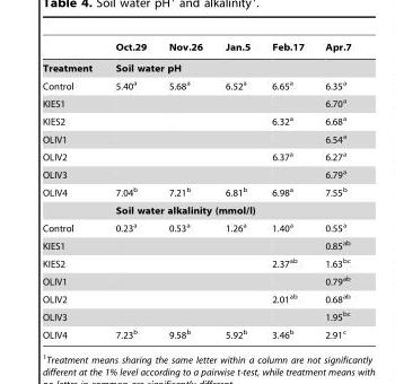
<table><thead><tr><td></td><td>Oct.29</td><td>Nov.26</td><td>Jan.5</td><td>Feb.17</td><td>Apr.7</td></tr></thead><tbody><tr><td>Treatment</td><td colspan="5">Soil water pH</td></tr><tr><td>Control</td><td>5.40<sup>a</sup></td><td>5.68<sup>a</sup></td><td>6.52<sup>a</sup></td><td>6.65<sup>a</sup></td><td>6.35<sup>a</sup></td></tr><tr><td>KIES1</td><td></td><td></td><td></td><td></td><td>6.70<sup>a</sup></td></tr><tr><td>KIES2</td><td></td><td></td><td></td><td>6.32<sup>a</sup></td><td>6.68<sup>a</sup></td></tr><tr><td>OLIV1</td><td></td><td></td><td></td><td></td><td>6.54<sup>a</sup></td></tr><tr><td>OLIV2</td><td></td><td></td><td></td><td>6.37<sup>a</sup></td><td>6.27<sup>a</sup></td></tr><tr><td>OLIV3</td><td></td><td></td><td></td><td></td><td>6.79<sup>a</sup></td></tr><tr><td rowspan="2">OLIV4</td><td>7.04<sup>b</sup></td><td>7.21<sup>b</sup></td><td>6.81<sup>b</sup></td><td>6.98<sup>a</sup></td><td>7.55<sup>b</sup></td></tr><tr><td colspan="5">Soil water alkalinity (mmol/l)</td></tr><tr><td>Control</td><td>0.23<sup>a</sup></td><td>0.53<sup>a</sup></td><td>1.26<sup>a</sup></td><td>1.40<sup>a</sup></td><td>0.55<sup>a</sup></td></tr><tr><td>KIES1</td><td></td><td></td><td></td><td></td><td>0.85<sup>ab</sup></td></tr><tr><td>KIES2</td><td></td><td></td><td></td><td>2.37<sup>ab</sup></td><td>1.63<sup>bc</sup></td></tr><tr><td>OLIV1</td><td></td><td></td><td></td><td></td><td>0.79<sup>ab</sup></td></tr><tr><td>OLIV2</td><td></td><td></td><td></td><td>2.01<sup>ab</sup></td><td>0.68<sup>ab</sup></td></tr><tr><td>OLIV3</td><td></td><td></td><td></td><td></td><td>1.95<sup>bc</sup></td></tr><tr><td>OLIV4</td><td>7.23<sup>b</sup></td><td>9.58<sup>b</sup></td><td>5.92<sup>b</sup></td><td>3.46<sup>b</sup></td><td>2.91<sup>c</sup></td></tr></tbody></table>